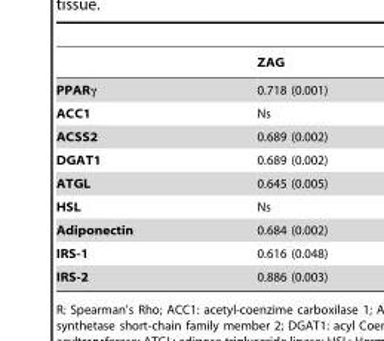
<table><thead><tr><td></td><td>ZAG</td></tr></thead><tbody><tr><td>PPARγ</td><td>0.718 (0.001)</td></tr><tr><td>ACC1</td><td>Ns</td></tr><tr><td>ACSS2</td><td>0.689 (0.002)</td></tr><tr><td>DGAT1</td><td>0.689 (0.002)</td></tr><tr><td>ATGL</td><td>0.645 (0.005)</td></tr><tr><td>HSL</td><td>Ns</td></tr><tr><td>Adiponectin</td><td>0.684 (0.002)</td></tr><tr><td>IRS-1</td><td>0.616 (0.048)</td></tr><tr><td>IRS-2</td><td>0.886 (0.003)</td></tr></tbody></table>